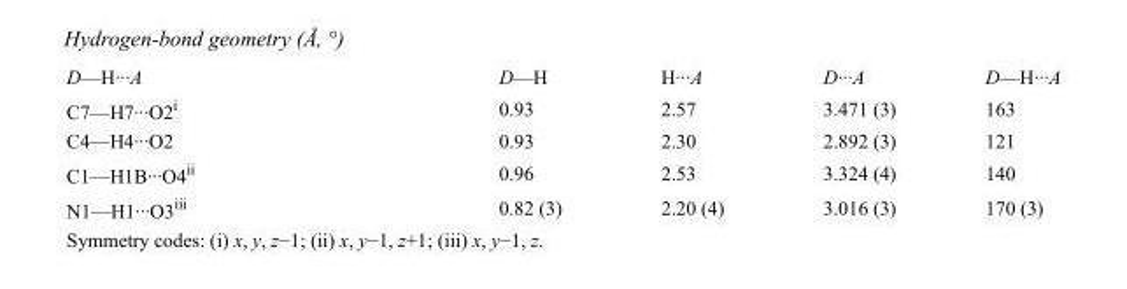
<table><tbody><tr><td>D—H···A</td><td>D—H</td><td>H···A</td><td>D···A</td><td>D—H···A</td></tr><tr><td>C7—H7···O2<sup>i</sup></td><td>0.93</td><td>2.57</td><td>3.471 (3)</td><td>163</td></tr><tr><td>C4—H4···O2</td><td>0.93</td><td>2.30</td><td>2.892 (3)</td><td>121</td></tr><tr><td>C1—H1B···O4<sup>ii</sup></td><td>0.96</td><td>2.53</td><td>3.324 (4)</td><td>140</td></tr><tr><td>N1—H1···O3<sup>iii</sup></td><td>0.82 (3)</td><td>2.20 (4)</td><td>3.016 (3)</td><td>170 (3)</td></tr></tbody></table>